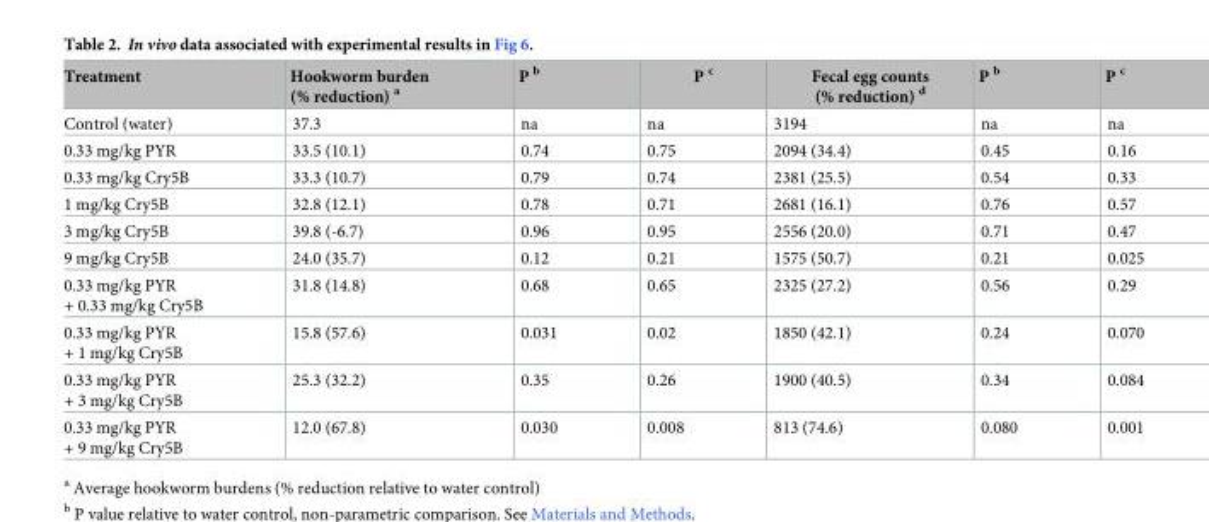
<table><thead><tr><td>Treatment</td><td>Hookworm burden (% reduction) <sup>a</sup></td><td>P <sup>b</sup></td><td>P <sup>c</sup></td><td>Fecal egg counts (% reduction) <sup>d</sup></td><td>P <sup>b</sup></td><td>P <sup>c</sup></td></tr></thead><tbody><tr><td>Control (water)</td><td>37.3</td><td>na</td><td>na</td><td>3194</td><td>na</td><td>na</td></tr><tr><td>0.33 mg/kg PYR</td><td>33.5 (10.1)</td><td>0.74</td><td>0.75</td><td>2094 (34.4)</td><td>0.45</td><td>0.16</td></tr><tr><td>0.33 mg/kg Cry5B</td><td>33.3 (10.7)</td><td>0.79</td><td>0.74</td><td>2381 (25.5)</td><td>0.54</td><td>0.33</td></tr><tr><td>1 mg/kg Cry5B</td><td>32.8 (12.1)</td><td>0.78</td><td>0.71</td><td>2681 (16.1)</td><td>0.76</td><td>0.57</td></tr><tr><td>3 mg/kg Cry5B</td><td>39.8 (-6.7)</td><td>0.96</td><td>0.95</td><td>2556 (20.0)</td><td>0.71</td><td>0.47</td></tr><tr><td>9 mg/kg Cry5B</td><td>24.0 (35.7)</td><td>0.12</td><td>0.21</td><td>1575 (50.7)</td><td>0.21</td><td>0.025</td></tr><tr><td>0.33 mg/kg PYR + 0.33 mg/kg Cry5B</td><td>31.8 (14.8)</td><td>0.68</td><td>0.65</td><td>2325 (27.2)</td><td>0.56</td><td>0.29</td></tr><tr><td>0.33 mg/kg PYR + 1 mg/kg Cry5B</td><td>15.8 (57.6)</td><td>0.031</td><td>0.02</td><td>1850 (42.1)</td><td>0.24</td><td>0.070</td></tr><tr><td>0.33 mg/kg PYR + 3 mg/kg Cry5B</td><td>25.3 (32.2)</td><td>0.35</td><td>0.26</td><td>1900 (40.5)</td><td>0.34</td><td>0.084</td></tr><tr><td>0.33 mg/kg PYR + 9 mg/kg Cry5B</td><td>12.0 (67.8)</td><td>0.030</td><td>0.008</td><td>813 (74.6)</td><td>0.080</td><td>0.001</td></tr></tbody></table>